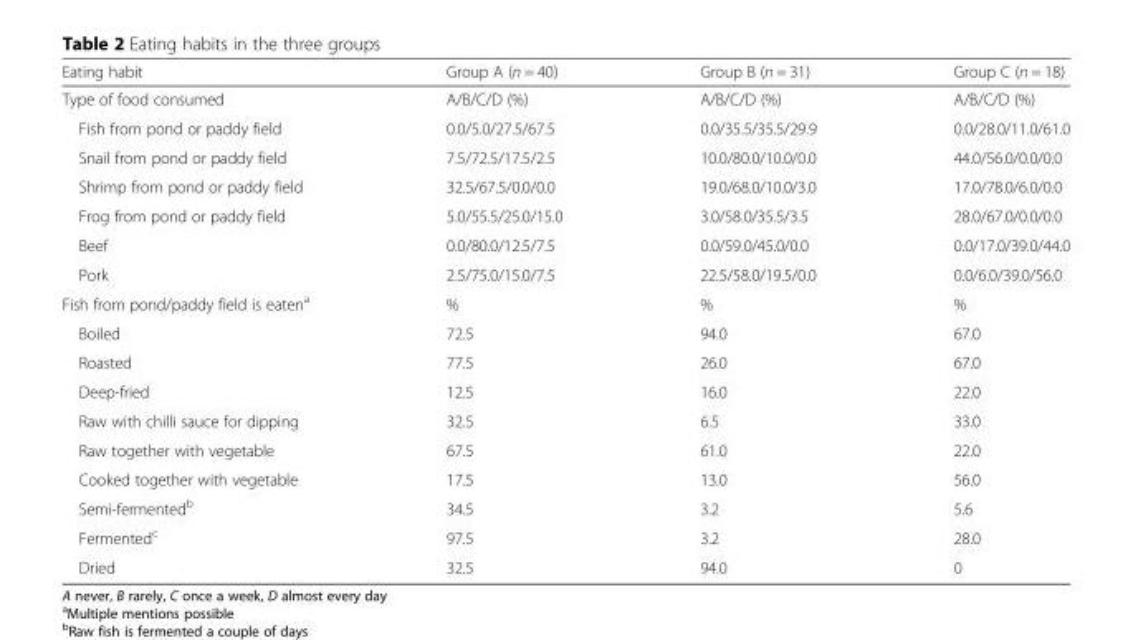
<table><thead><tr><td>Eating habit</td><td>Group A (n = 40)</td><td>Group B (n = 31)</td><td>Group C (n = 18)</td></tr></thead><tbody><tr><td>Type of food consumed</td><td>A/B/C/D (%)</td><td>A/B/C/D (%)</td><td>A/B/C/D (%)</td></tr><tr><td>Fish from pond or paddy field</td><td>0.0/5.0/27.5/67.5</td><td>0.0/35.5/35.5/29.9</td><td>0.0/28.0/11.0/61.0</td></tr><tr><td>Snail from pond or paddy field</td><td>7.5/72.5/17.5/2.5</td><td>10.0/80.0/10.0/0.0</td><td>44.0/56.0/0.0/0.0</td></tr><tr><td>Shrimp from pond or paddy field</td><td>32.5/67.5/0.0/0.0</td><td>19.0/68.0/10.0/3.0</td><td>17.0/78.0/6.0/0.0</td></tr><tr><td>Frog from pond or paddy field</td><td>5.0/55.5/25.0/15.0</td><td>3.0/58.0/35.5/3.5</td><td>28.0/67.0/0.0/0.0</td></tr><tr><td>Beef</td><td>0.0/80.0/12.5/7.5</td><td>0.0/59.0/45.0/0.0</td><td>0.0/17.0/39.0/44.0</td></tr><tr><td>Pork</td><td>2.5/75.0/15.0/7.5</td><td>22.5/58.0/19.5/0.0</td><td>0.0/6.0/39.0/56.0</td></tr><tr><td>Fish from pond/paddy field is eaten<sup>a</sup></td><td>%</td><td>%</td><td>%</td></tr><tr><td>Boiled</td><td>72.5</td><td>94.0</td><td>67.0</td></tr><tr><td>Roasted</td><td>77.5</td><td>26.0</td><td>67.0</td></tr><tr><td>Deep-fried</td><td>12.5</td><td>16.0</td><td>22.0</td></tr><tr><td>Raw with chilli sauce for dipping</td><td>32.5</td><td>6.5</td><td>33.0</td></tr><tr><td>Raw together with vegetable</td><td>67.5</td><td>61.0</td><td>22.0</td></tr><tr><td>Cooked together with vegetable</td><td>17.5</td><td>13.0</td><td>56.0</td></tr><tr><td>Semi-fermented<sup>b</sup></td><td>34.5</td><td>3.2</td><td>5.6</td></tr><tr><td>Fermented<sup>c</sup></td><td>97.5</td><td>3.2</td><td>28.0</td></tr><tr><td>Dried</td><td>32.5</td><td>94.0</td><td>0</td></tr></tbody></table>